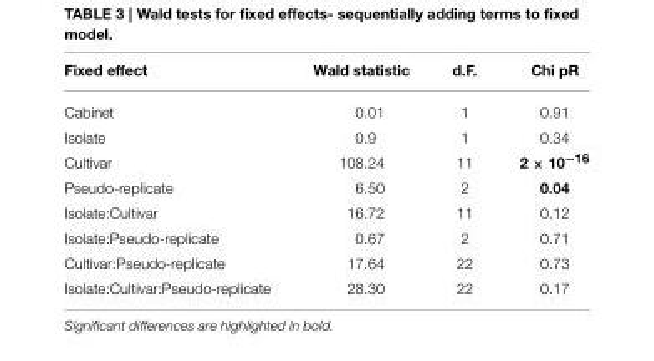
<table><thead><tr><td>Fixed effect</td><td>Wald statistic</td><td>d.F.</td><td>Chi pR</td></tr></thead><tbody><tr><td>Cabinet</td><td>0.01</td><td>1</td><td>0.91</td></tr><tr><td>Isolate</td><td>0.9</td><td>1</td><td>0.34</td></tr><tr><td>Cultivar</td><td>108.24</td><td>11</td><td>2 × 10<sup>−16</sup></td></tr><tr><td>Pseudo-replicate</td><td>6.50</td><td>2</td><td>0.04</td></tr><tr><td>Isolate:Cultivar</td><td>16.72</td><td>11</td><td>0.12</td></tr><tr><td>Isolate:Pseudo-replicate</td><td>0.67</td><td>2</td><td>0.71</td></tr><tr><td>Cultivar:Pseudo-replicate</td><td>17.64</td><td>22</td><td>0.73</td></tr><tr><td>Isolate:Cultivar:Pseudo-replicate</td><td>28.30</td><td>22</td><td>0.17</td></tr></tbody></table>